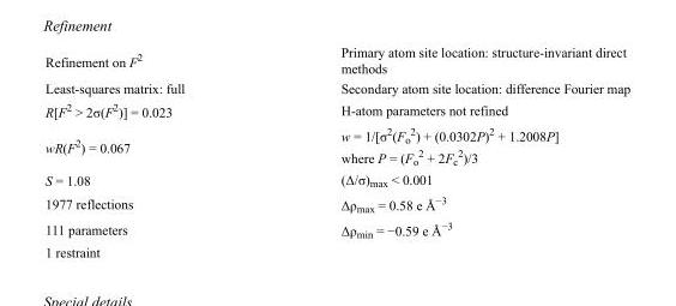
<table><tbody><tr><td>Refinement on F<sup>2</sup></td><td>Primary atom site location: structure-invariant direct methods</td></tr><tr><td>Least-squares matrix: full</td><td>Secondary atom site location: difference Fourier map</td></tr><tr><td>R[F<sup>2</sup> &gt; 2σ(F<sup>2</sup>)] = 0.023</td><td>H-atom parameters not refined</td></tr><tr><td>wR(F<sup>2</sup>) = 0.067</td><td>w = 1/[σ<sup>2</sup>(F<sub>o</sub> <sup>2</sup>) + (0.0302P)<sup>2</sup> + 1.2008P] where P = (F<sub>o</sub> <sup>2</sup> + 2F<sub>c</sub> <sup>2</sup>)/3</td></tr><tr><td>S = 1.08</td><td>(Δ/σ)<sub>max</sub> &lt; 0.001</td></tr><tr><td>1977 reflections</td><td>Δρ<sub>max</sub> = 0.58 e Å<sup>−3</sup></td></tr><tr><td>111 parameters</td><td>Δρ<sub>min</sub> = −0.59 e Å<sup>−3</sup></td></tr><tr><td>1 restraint</td><td></td></tr></tbody></table>